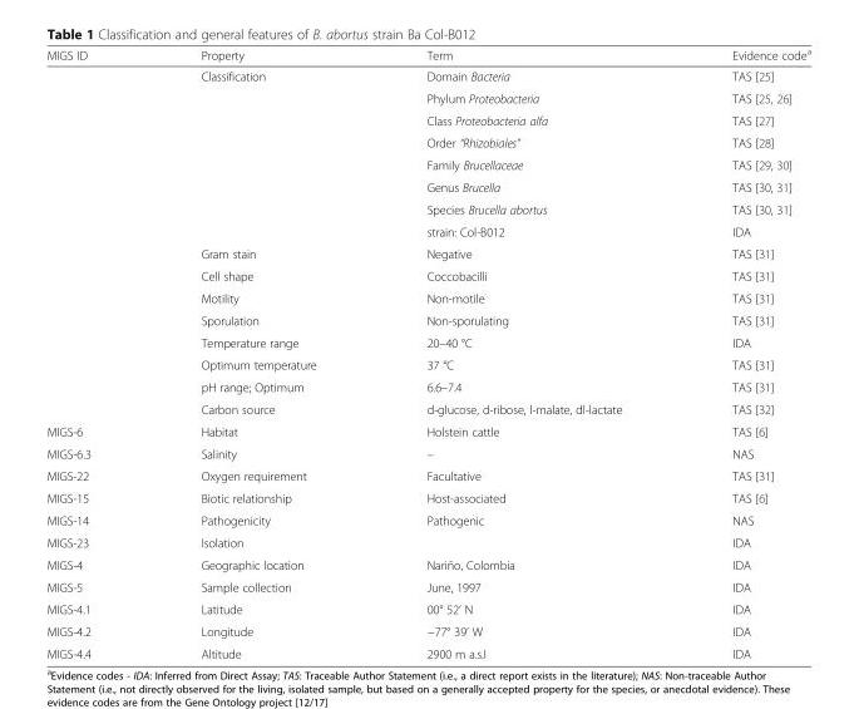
<table><thead><tr><td>MIGS ID</td><td>Property</td><td>Term</td><td>Evidence code<sup>a</sup></td></tr></thead><tbody><tr><td></td><td>Classification</td><td>Domain Bacteria</td><td>TAS [25]</td></tr><tr><td></td><td></td><td>Phylum Proteobacteria</td><td>TAS [25, 26]</td></tr><tr><td></td><td></td><td>Class Proteobacteria alfa</td><td>TAS [27]</td></tr><tr><td></td><td></td><td>Order “Rhizobiales”</td><td>TAS [28]</td></tr><tr><td></td><td></td><td>Family Brucellaceae</td><td>TAS [29, 30]</td></tr><tr><td></td><td></td><td>Genus Brucella</td><td>TAS [30, 31]</td></tr><tr><td></td><td></td><td>Species Brucella abortus</td><td>TAS [30, 31]</td></tr><tr><td></td><td></td><td>strain: Col-B012</td><td>IDA</td></tr><tr><td></td><td>Gram stain</td><td>Negative</td><td>TAS [31]</td></tr><tr><td></td><td>Cell shape</td><td>Coccobacilli</td><td>TAS [31]</td></tr><tr><td></td><td>Motility</td><td>Non-motile</td><td>TAS [31]</td></tr><tr><td></td><td>Sporulation</td><td>Non-sporulating</td><td>TAS [31]</td></tr><tr><td></td><td>Temperature range</td><td>20–40 °C</td><td>IDA</td></tr><tr><td></td><td>Optimum temperature</td><td>37 °C</td><td>TAS [31]</td></tr><tr><td></td><td>pH range; Optimum</td><td>6.6–7.4</td><td>TAS [31]</td></tr><tr><td></td><td>Carbon source</td><td>d-glucose, d-ribose, l-malate, dl-lactate</td><td>TAS [32]</td></tr><tr><td>MIGS-6</td><td>Habitat</td><td>Holstein cattle</td><td>TAS [6]</td></tr><tr><td>MIGS-6.3</td><td>Salinity</td><td>–</td><td>NAS</td></tr><tr><td>MIGS-22</td><td>Oxygen requirement</td><td>Facultative</td><td>TAS [31]</td></tr><tr><td>MIGS-15</td><td>Biotic relationship</td><td>Host-associated</td><td>TAS [6]</td></tr><tr><td>MIGS-14</td><td>Pathogenicity</td><td>Pathogenic</td><td>NAS</td></tr><tr><td>MIGS-23</td><td>Isolation</td><td></td><td>IDA</td></tr><tr><td>MIGS-4</td><td>Geographic location</td><td>Nariño, Colombia</td><td>IDA</td></tr><tr><td>MIGS-5</td><td>Sample collection</td><td>June, 1997</td><td>IDA</td></tr><tr><td>MIGS-4.1</td><td>Latitude</td><td>00° 52’ N</td><td>IDA</td></tr><tr><td>MIGS-4.2</td><td>Longitude</td><td>−77° 39’ W</td><td>IDA</td></tr><tr><td>MIGS-4.4</td><td>Altitude</td><td>2900 m a.s.I</td><td>IDA</td></tr></tbody></table>